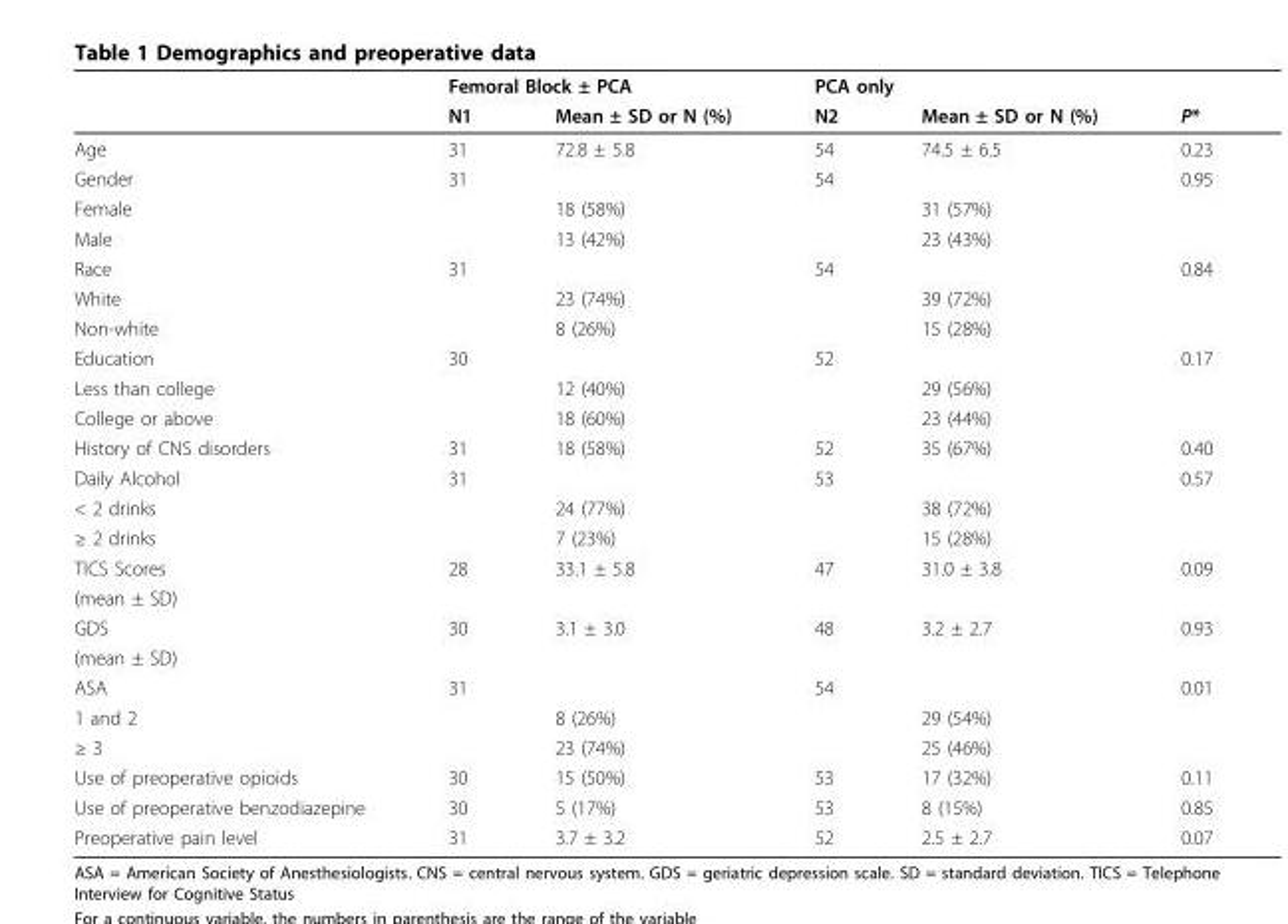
<table><thead><tr><td rowspan="2"></td><td colspan="2">Femoral Block ± PCA</td><td colspan="2">PCA only</td><td rowspan="2">P*</td></tr><tr><td>N1</td><td>Mean ± SD or N (%)</td><td>N2</td><td>Mean ± SD or N (%)</td></tr></thead><tbody><tr><td>Age</td><td>31</td><td>72.8 ± 5.8</td><td>54</td><td>74.5 ± 6.5</td><td>0.23</td></tr><tr><td>Gender</td><td>31</td><td></td><td>54</td><td></td><td>0.95</td></tr><tr><td>Female</td><td></td><td>18 (58%)</td><td></td><td>31 (57%)</td><td></td></tr><tr><td>Male</td><td></td><td>13 (42%)</td><td></td><td>23 (43%)</td><td></td></tr><tr><td>Race</td><td>31</td><td></td><td>54</td><td></td><td>0.84</td></tr><tr><td>White</td><td></td><td>23 (74%)</td><td></td><td>39 (72%)</td><td></td></tr><tr><td>Non-white</td><td></td><td>8 (26%)</td><td></td><td>15 (28%)</td><td></td></tr><tr><td>Education</td><td>30</td><td></td><td>52</td><td></td><td>0.17</td></tr><tr><td>Less than college</td><td></td><td>12 (40%)</td><td></td><td>29 (56%)</td><td></td></tr><tr><td>College or above</td><td></td><td>18 (60%)</td><td></td><td>23 (44%)</td><td></td></tr><tr><td>History of CNS disorders</td><td>31</td><td>18 (58%)</td><td>52</td><td>35 (67%)</td><td>0.40</td></tr><tr><td>Daily Alcohol</td><td>31</td><td></td><td>53</td><td></td><td>0.57</td></tr><tr><td>&lt; 2 drinks</td><td></td><td>24 (77%)</td><td></td><td>38 (72%)</td><td></td></tr><tr><td>≥ 2 drinks</td><td></td><td>7 (23%)</td><td></td><td>15 (28%)</td><td></td></tr><tr><td>TICS Scores</td><td>28</td><td>33.1 ± 5.8</td><td>47</td><td>31.0 ± 3.8</td><td>0.09</td></tr><tr><td colspan="6">(mean ± SD)</td></tr><tr><td>GDS</td><td>30</td><td>3.1 ± 3.0</td><td>48</td><td>3.2 ± 2.7</td><td>0.93</td></tr><tr><td colspan="6">(mean ± SD)</td></tr><tr><td>ASA</td><td>31</td><td></td><td>54</td><td></td><td>0.01</td></tr><tr><td>1 and 2</td><td></td><td>8 (26%)</td><td></td><td>29 (54%)</td><td></td></tr><tr><td>≥ 3</td><td></td><td>23 (74%)</td><td></td><td>25 (46%)</td><td></td></tr><tr><td>Use of preoperative opioids</td><td>30</td><td>15 (50%)</td><td>53</td><td>17 (32%)</td><td>0.11</td></tr><tr><td>Use of preoperative benzodiazepine</td><td>30</td><td>5 (17%)</td><td>53</td><td>8 (15%)</td><td>0.85</td></tr><tr><td>Preoperative pain level</td><td>31</td><td>3.7 ± 3.2</td><td>52</td><td>2.5 ± 2.7</td><td>0.07</td></tr></tbody></table>